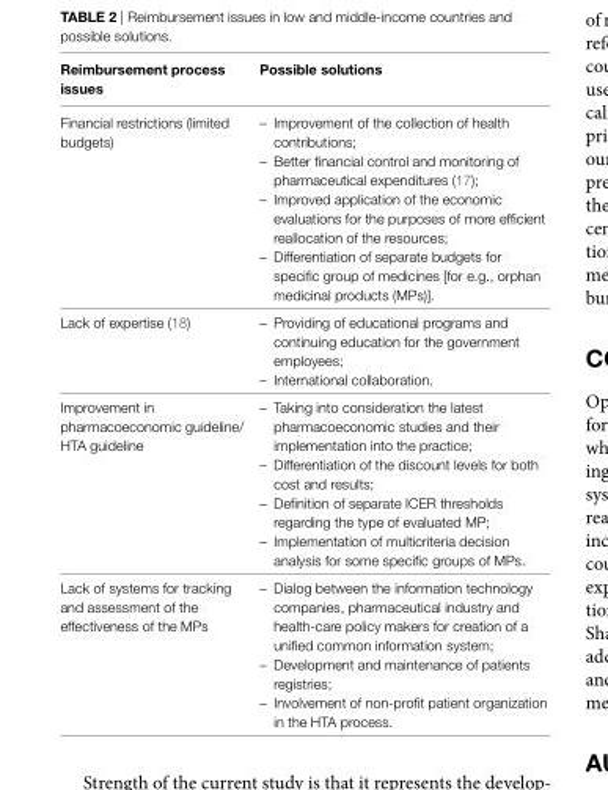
<table><thead><tr><td>reimbursement process issues</td><td>Possible solutions</td></tr></thead><tbody><tr><td>Financial restrictions (limited budgets)</td><td>– Improvement of the collection of health contributions; – Better financial control and monitoring of pharmaceutical expenditures (17); – Improved application of the economic evaluations for the purposes of more efficient reallocation of the resources; – Differentiation of separate budgets for specific group of medicines [for e.g., orphan medicinal products (MPs)].</td></tr><tr><td>Lack of expertise (18)</td><td>– Providing of educational programs and continuing education for the government employees; – International collaboration.</td></tr><tr><td>Improvement in pharmacoeconomic guideline/ HTA guideline</td><td>– Taking into consideration the latest pharmacoeconomic studies and their implementation into the practice; – Differentiation of the discount levels for both cost and results; – Definition of separate ICER thresholds regarding the type of evaluated MP; – Implementation of multicriteria decision analysis for some specific groups of MPs.</td></tr><tr><td>Lack of systems for tracking and assessment of the effectiveness of the MPs</td><td>– Dialog between the information technology companies, pharmaceutical industry and health-care policy makers for creation of a unified common information system; – Development and maintenance of patients registries; – Involvement of non-profit patient organization in the HTA process.</td></tr></tbody></table>